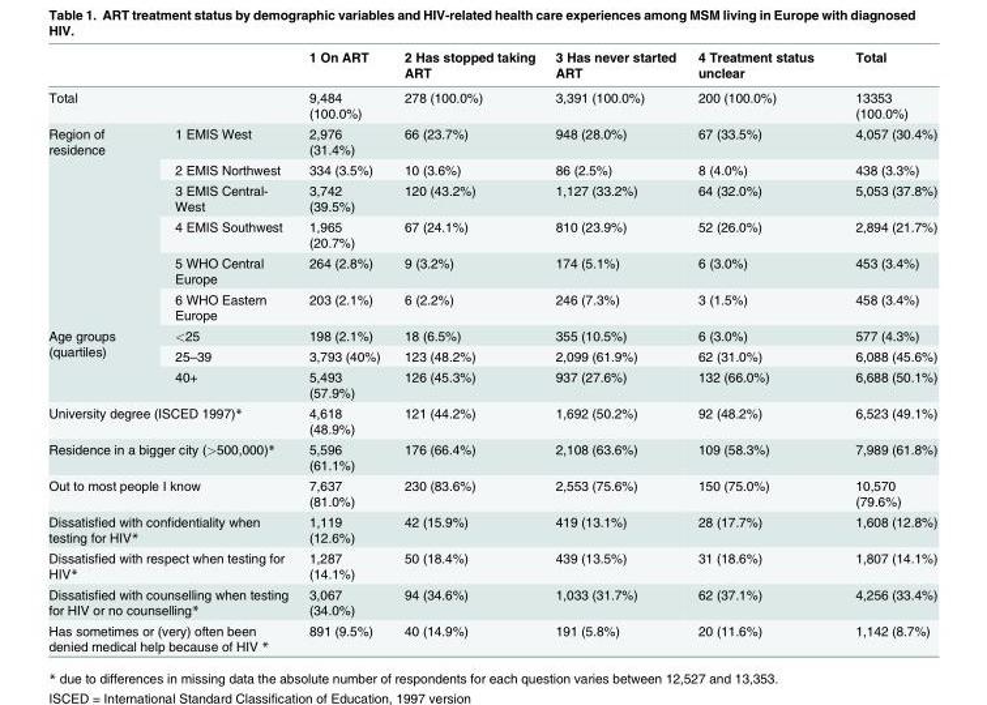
<table><thead><tr><td></td><td></td><td>1 On ART</td><td>2 Has stopped taking ART</td><td>3 Has never started ART</td><td>4 Treatment status unclear</td><td>Total</td></tr></thead><tbody><tr><td colspan="2">Total</td><td>9,484 (100.0%)</td><td>278 (100.0%)</td><td>3,391 (100.0%)</td><td>200 (100.0%)</td><td>13353 (100.0%)</td></tr><tr><td rowspan="6">Region of residence</td><td>1 EMIS West</td><td>2,976 (31.4%)</td><td>66 (23.7%)</td><td>948 (28.0%)</td><td>67 (33.5%)</td><td>4,057 (30.4%)</td></tr><tr><td>2 EMIS Northwest</td><td>334 (3.5%)</td><td>10 (3.6%)</td><td>86 (2.5%)</td><td>8 (4.0%)</td><td>438 (3.3%)</td></tr><tr><td>3 EMIS Central- West</td><td>3,742 (39.5%)</td><td>120 (43.2%)</td><td>1,127 (33.2%)</td><td>64 (32.0%)</td><td>5,053 (37.8%)</td></tr><tr><td>4 EMIS Southwest</td><td>1,965 (20.7%)</td><td>67 (24.1%)</td><td>810 (23.9%)</td><td>52 (26.0%)</td><td>2,894 (21.7%)</td></tr><tr><td>5 WHO Central Europe</td><td>264 (2.8%)</td><td>9 (3.2%)</td><td>174 (5.1%)</td><td>6 (3.0%)</td><td>453 (3.4%)</td></tr><tr><td>6 WHO Eastern Europe</td><td>203 (2.1%)</td><td>6 (2.2%)</td><td>246 (7.3%)</td><td>3 (1.5%)</td><td>458 (3.4%)</td></tr><tr><td rowspan="3">Age groups (quartiles)</td><td>&lt;25</td><td>198 (2.1%)</td><td>18 (6.5%)</td><td>355 (10.5%)</td><td>6 (3.0%)</td><td>577 (4.3%)</td></tr><tr><td>25–39</td><td>3,793 (40%)</td><td>123 (48.2%)</td><td>2,099 (61.9%)</td><td>62 (31.0%)</td><td>6,088 (45.6%)</td></tr><tr><td>40+</td><td>5,493 (57.9%)</td><td>126 (45.3%)</td><td>937 (27.6%)</td><td>132 (66.0%)</td><td>6,688 (50.1%)</td></tr><tr><td colspan="2">University degree (ISCED 1997)*</td><td>4,618 (48.9%)</td><td>121 (44.2%)</td><td>1,692 (50.2%)</td><td>92 (48.2%)</td><td>6,523 (49.1%)</td></tr><tr><td colspan="2">Residence in a bigger city (&gt;500,000)*</td><td>5,596 (61.1%)</td><td>176 (66.4%)</td><td>2,108 (63.6%)</td><td>109 (58.3%)</td><td>7,989 (61.8%)</td></tr><tr><td colspan="2">Out to most people I know</td><td>7,637 (81.0%)</td><td>230 (83.6%)</td><td>2,553 (75.6%)</td><td>150 (75.0%)</td><td>10,570 (79.6%)</td></tr><tr><td colspan="2">Dissatisfied with confidentiality when testing for HIV*</td><td>1,119 (12.6%)</td><td>42 (15.9%)</td><td>419 (13.1%)</td><td>28 (17.7%)</td><td>1,608 (12.8%)</td></tr><tr><td colspan="2">Dissatisfied with respect when testing for HIV*</td><td>1,287 (14.1%)</td><td>50 (18.4%)</td><td>439 (13.5%)</td><td>31 (18.6%)</td><td>1,807 (14.1%)</td></tr><tr><td colspan="2">Dissatisfied with counselling when testing for HIV or no counselling*</td><td>3,067 (34.0%)</td><td>94 (34.6%)</td><td>1,033 (31.7%)</td><td>62 (37.1%)</td><td>4,256 (33.4%)</td></tr><tr><td colspan="2">Has sometimes or (very) often been denied medical help because of HIV *</td><td>891 (9.5%)</td><td>40 (14.9%)</td><td>191 (5.8%)</td><td>20 (11.6%)</td><td>1,142 (8.7%)</td></tr></tbody></table>